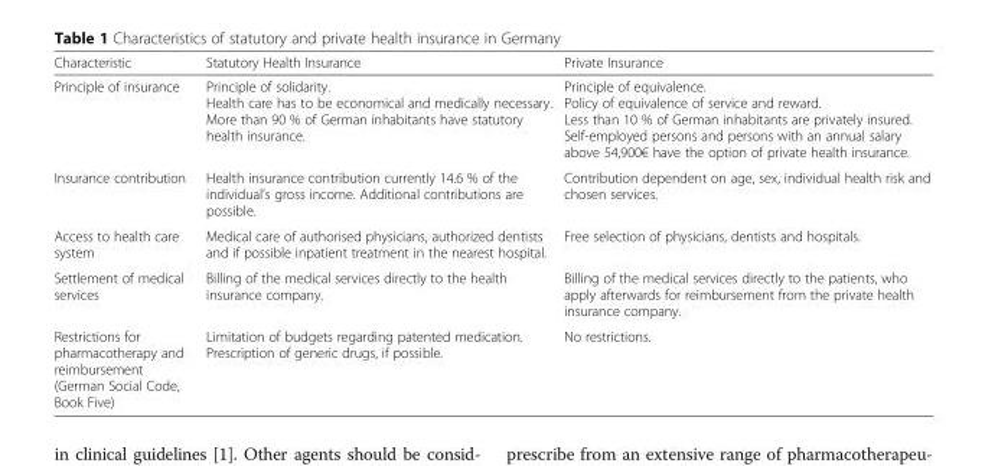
<table><thead><tr><td>Characteristic</td><td>Statutory Health Insurance</td><td>Private Insurance</td></tr></thead><tbody><tr><td>Principle of insurance</td><td>Principle of solidarity. Health care has to be economical and medically necessary. More than 90 % of German inhabitants have statutory health insurance.</td><td>Principle of equivalence. Policy of equivalence of service and reward. Less than 10 % of German inhabitants are privately insured. Self-employed persons and persons with an annual salary above 54,900€ have the option of private health insurance.</td></tr><tr><td>Insurance contribution</td><td>Health insurance contribution currently 14.6 % of the individual’s gross income. Additional contributions are possible.</td><td>Contribution dependent on age, sex, individual health risk and chosen services.</td></tr><tr><td>Access to health care system</td><td>Medical care of authorised physicians, authorized dentists and if possible inpatient treatment in the nearest hospital.</td><td>Free selection of physicians, dentists and hospitals.</td></tr><tr><td>Settlement of medical services</td><td>Billing of the medical services directly to the health insurance company.</td><td>Billing of the medical services directly to the patients, who apply afterwards for reimbursement from the private health insurance company.</td></tr><tr><td>Restrictions for pharmacotherapy and reimbursement (German Social Code, Book Five)</td><td>Limitation of budgets regarding patented medication. Prescription of generic drugs, if possible.</td><td>No restrictions.</td></tr></tbody></table>